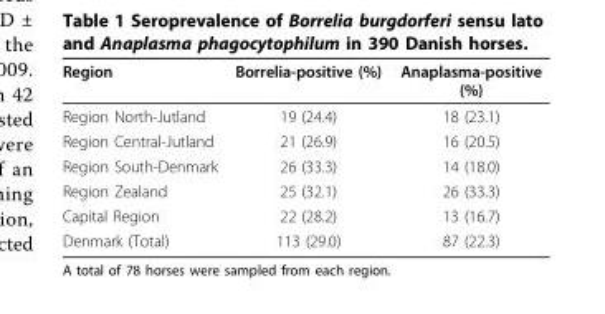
<table><thead><tr><td>Region</td><td>Borrelia-positive (%)</td><td>Anaplasma-positive (%)</td></tr></thead><tbody><tr><td>Region North-Jutland</td><td>19 (24.4)</td><td>18 (23.1)</td></tr><tr><td>Region Central-Jutland</td><td>21 (26.9)</td><td>16 (20.5)</td></tr><tr><td>Region South-Denmark</td><td>26 (33.3)</td><td>14 (18.0)</td></tr><tr><td>Region Zealand</td><td>25 (32.1)</td><td>26 (33.3)</td></tr><tr><td>Capital Region</td><td>22 (28.2)</td><td>13 (16.7)</td></tr><tr><td>Denmark (Total)</td><td>113 (29.0)</td><td>87 (22.3)</td></tr></tbody></table>